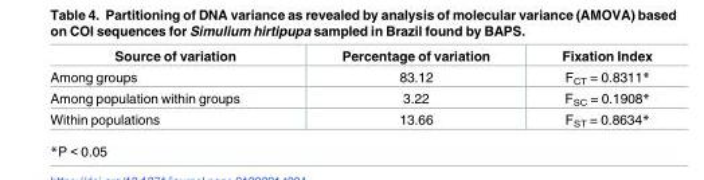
<table><thead><tr><td>Source of variation</td><td>Percentage of variation</td><td>Fixation Index</td></tr></thead><tbody><tr><td>Among groups</td><td>83.12</td><td>F<sub>CT</sub> = 0.8311*</td></tr><tr><td>Among population within groups</td><td>3.22</td><td>F<sub>SC</sub> = 0.1908*</td></tr><tr><td>Within populations</td><td>13.66</td><td>F<sub>ST</sub> = 0.8634*</td></tr></tbody></table>